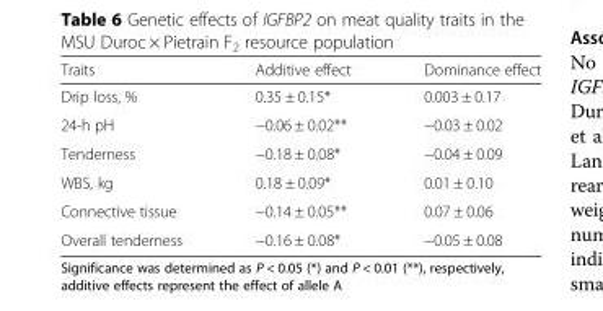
<table><thead><tr><td>Traits</td><td>Additive effect</td><td>Dominance effect</td></tr></thead><tbody><tr><td>Drip loss, %</td><td>0.35 ± 0.15*</td><td>0.003 ± 0.17</td></tr><tr><td>24-h pH</td><td>−0.06 ± 0.02**</td><td>−0.03 ± 0.02</td></tr><tr><td>Tenderness</td><td>−0.18 ± 0.08*</td><td>−0.04 ± 0.09</td></tr><tr><td>WBS, kg</td><td>0.18 ± 0.09*</td><td>0.01 ± 0.10</td></tr><tr><td>Connective tissue</td><td>−0.14 ± 0.05**</td><td>0.07 ± 0.06</td></tr><tr><td>Overall tenderness</td><td>−0.16 ± 0.08*</td><td>−0.05 ± 0.08</td></tr></tbody></table>